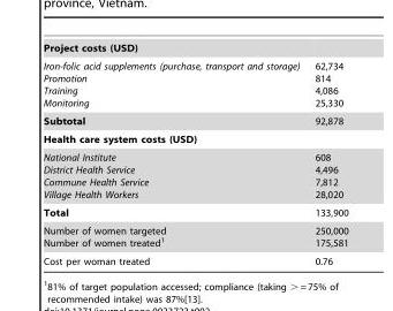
<table><tbody><tr><td colspan="2">Project costs (USD)</td></tr><tr><td>Iron-folic acid supplements (purchase, transport and storage) Promotion Training Monitoring</td><td>62,734 814 4,086 25,330</td></tr><tr><td>Subtotal</td><td>92,878</td></tr><tr><td colspan="2">Health care system costs (USD)</td></tr><tr><td>National Institute District Health Service Commune Health Service Village Health Workers</td><td>608 4,496 7,812 28,020</td></tr><tr><td>Total</td><td>133,900</td></tr><tr><td>Number of women targeted Number of women treated<sup>1</sup></td><td>250,000 175,581</td></tr><tr><td>Cost per woman treated</td><td>0.76</td></tr></tbody></table>